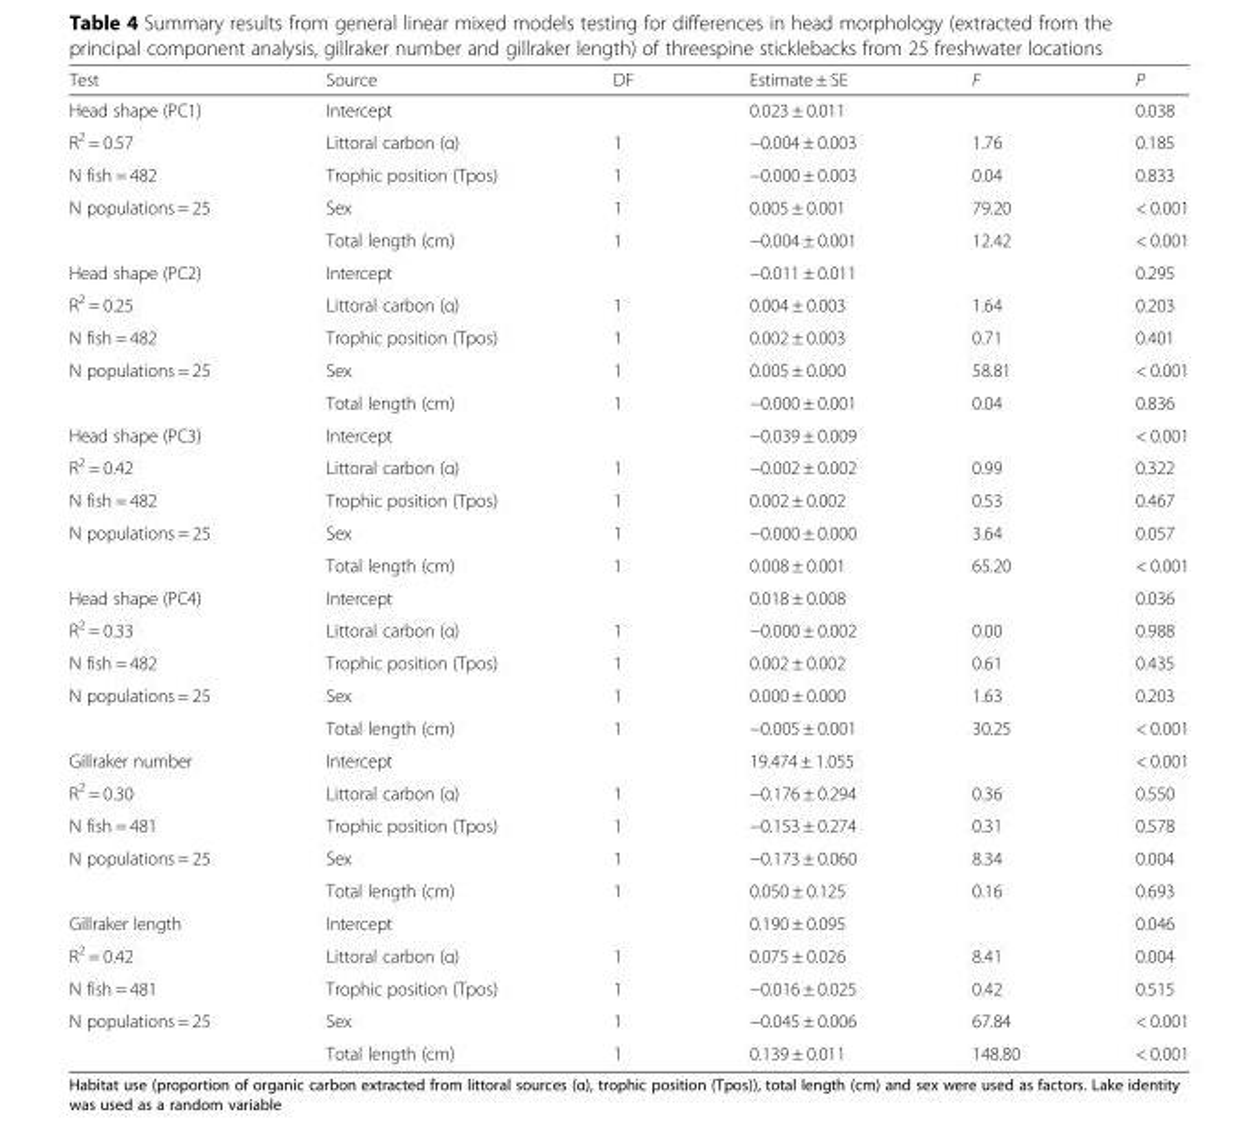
<table><thead><tr><td>Test</td><td>Source</td><td>DF</td><td>Estimate ± SE</td><td>F</td><td>P</td></tr></thead><tbody><tr><td>Head shape (PC1)</td><td>Intercept</td><td></td><td>0.023 ± 0.011</td><td></td><td>0.038</td></tr><tr><td>R<sup>2</sup> = 0.57</td><td>Littoral carbon (α)</td><td>1</td><td>−0.004 ± 0.003</td><td>1.76</td><td>0.185</td></tr><tr><td>N fish = 482</td><td>Trophic position (Tpos)</td><td>1</td><td>−0.000 ± 0.003</td><td>0.04</td><td>0.833</td></tr><tr><td rowspan="2">N populations = 25</td><td>Sex</td><td>1</td><td>0.005 ± 0.001</td><td>79.20</td><td>&lt; 0.001</td></tr><tr><td>Total length (cm)</td><td>1</td><td>−0.004 ± 0.001</td><td>12.42</td><td>&lt; 0.001</td></tr><tr><td>Head shape (PC2)</td><td>Intercept</td><td></td><td>−0.011 ± 0.011</td><td></td><td>0.295</td></tr><tr><td>R<sup>2</sup> = 0.25</td><td>Littoral carbon (α)</td><td>1</td><td>0.004 ± 0.003</td><td>1.64</td><td>0.203</td></tr><tr><td>N fish = 482</td><td>Trophic position (Tpos)</td><td>1</td><td>0.002 ± 0.003</td><td>0.71</td><td>0.401</td></tr><tr><td rowspan="2">N populations = 25</td><td>Sex</td><td>1</td><td>0.005 ± 0.000</td><td>58.81</td><td>&lt; 0.001</td></tr><tr><td>Total length (cm)</td><td>1</td><td>−0.000 ± 0.001</td><td>0.04</td><td>0.836</td></tr><tr><td>Head shape (PC3)</td><td>Intercept</td><td></td><td>−0.039 ± 0.009</td><td></td><td>&lt; 0.001</td></tr><tr><td>R<sup>2</sup> = 0.42</td><td>Littoral carbon (α)</td><td>1</td><td>−0.002 ± 0.002</td><td>0.99</td><td>0.322</td></tr><tr><td>N fish = 482</td><td>Trophic position (Tpos)</td><td>1</td><td>0.002 ± 0.002</td><td>0.53</td><td>0.467</td></tr><tr><td rowspan="2">N populations = 25</td><td>Sex</td><td>1</td><td>−0.000 ± 0.000</td><td>3.64</td><td>0.057</td></tr><tr><td>Total length (cm)</td><td>1</td><td>0.008 ± 0.001</td><td>65.20</td><td>&lt; 0.001</td></tr><tr><td>Head shape (PC4)</td><td>Intercept</td><td></td><td>0.018 ± 0.008</td><td></td><td>0.036</td></tr><tr><td>R<sup>2</sup> = 0.33</td><td>Littoral carbon (α)</td><td>1</td><td>−0.000 ± 0.002</td><td>0.00</td><td>0.988</td></tr><tr><td>N fish = 482</td><td>Trophic position (Tpos)</td><td>1</td><td>0.002 ± 0.002</td><td>0.61</td><td>0.435</td></tr><tr><td rowspan="2">N populations = 25</td><td>Sex</td><td>1</td><td>0.000 ± 0.000</td><td>1.63</td><td>0.203</td></tr><tr><td>Total length (cm)</td><td>1</td><td>−0.005 ± 0.001</td><td>30.25</td><td>&lt; 0.001</td></tr><tr><td>Gillraker number</td><td>Intercept</td><td></td><td>19.474 ± 1.055</td><td></td><td>&lt; 0.001</td></tr><tr><td>R<sup>2</sup> = 0.30</td><td>Littoral carbon (α)</td><td>1</td><td>−0.176 ± 0.294</td><td>0.36</td><td>0.550</td></tr><tr><td>N fish = 481</td><td>Trophic position (Tpos)</td><td>1</td><td>−0.153 ± 0.274</td><td>0.31</td><td>0.578</td></tr><tr><td rowspan="2">N populations = 25</td><td>Sex</td><td>1</td><td>−0.173 ± 0.060</td><td>8.34</td><td>0.004</td></tr><tr><td>Total length (cm)</td><td>1</td><td>0.050 ± 0.125</td><td>0.16</td><td>0.693</td></tr><tr><td>Gillraker length</td><td>Intercept</td><td></td><td>0.190 ± 0.095</td><td></td><td>0.046</td></tr><tr><td>R<sup>2</sup> = 0.42</td><td>Littoral carbon (α)</td><td>1</td><td>0.075 ± 0.026</td><td>8.41</td><td>0.004</td></tr><tr><td>N fish = 481</td><td>Trophic position (Tpos)</td><td>1</td><td>−0.016 ± 0.025</td><td>0.42</td><td>0.515</td></tr><tr><td rowspan="2">N populations = 25</td><td>Sex</td><td>1</td><td>−0.045 ± 0.006</td><td>67.84</td><td>&lt; 0.001</td></tr><tr><td>Total length (cm)</td><td>1</td><td>0.139 ± 0.011</td><td>148.80</td><td>&lt; 0.001</td></tr></tbody></table>